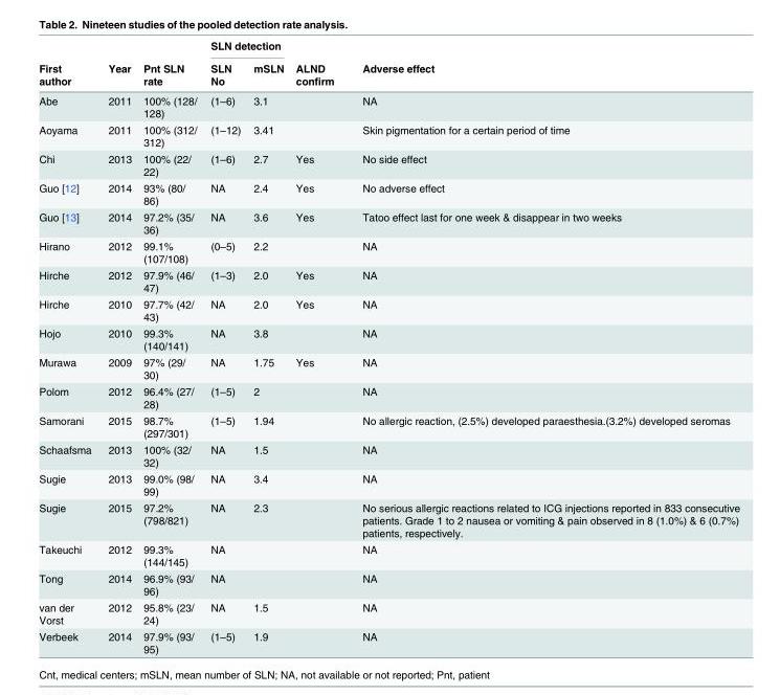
<table><thead><tr><td rowspan="2">First author</td><td rowspan="2">Year</td><td rowspan="2">Pnt SLN rate</td><td colspan="2">SLN detection</td><td rowspan="2">ALND confirm</td><td rowspan="2">Adverse effect</td></tr><tr><td>SLN No</td><td>mSLN</td></tr></thead><tbody><tr><td>Abe</td><td>2011</td><td>100% (128/ 128)</td><td>(1–6)</td><td>3.1</td><td></td><td>NA</td></tr><tr><td>Aoyama</td><td>2011</td><td>100% (312/ 312)</td><td>(1–12)</td><td>3.41</td><td></td><td>Skin pigmentation for a certain period of time</td></tr><tr><td>Chi</td><td>2013</td><td>100% (22/ 22)</td><td>(1–6)</td><td>2.7</td><td>Yes</td><td>No side effect</td></tr><tr><td>Guo [12]</td><td>2014</td><td>93% (80/ 86)</td><td>NA</td><td>2.4</td><td>Yes</td><td>No adverse effect</td></tr><tr><td>Guo [13]</td><td>2014</td><td>97.2% (35/ 36)</td><td>NA</td><td>3.6</td><td>Yes</td><td>Tatoo effect last for one week &amp; disappear in two weeks</td></tr><tr><td>Hirano</td><td>2012</td><td>99.1% (107/108)</td><td>(0–5)</td><td>2.2</td><td></td><td>NA</td></tr><tr><td>Hirche</td><td>2012</td><td>97.9% (46/ 47)</td><td>(1–3)</td><td>2.0</td><td>Yes</td><td>NA</td></tr><tr><td>Hirche</td><td>2010</td><td>97.7% (42/ 43)</td><td>NA</td><td>2.0</td><td>Yes</td><td>NA</td></tr><tr><td>Hojo</td><td>2010</td><td>99.3% (140/141)</td><td>NA</td><td>3.8</td><td></td><td>NA</td></tr><tr><td>Murawa</td><td>2009</td><td>97% (29/ 30)</td><td>NA</td><td>1.75</td><td>Yes</td><td>NA</td></tr><tr><td>Polom</td><td>2012</td><td>96.4% (27/ 28)</td><td>(1–5)</td><td>2</td><td></td><td>NA</td></tr><tr><td>Samorani</td><td>2015</td><td>98.7% (297/301)</td><td>(1–5)</td><td>1.94</td><td></td><td>No allergic reaction, (2.5%) developed paraesthesia.(3.2%) developed seromas</td></tr><tr><td>Schaafsma</td><td>2013</td><td>100% (32/ 32)</td><td>NA</td><td>1.5</td><td></td><td>NA</td></tr><tr><td>Sugie</td><td>2013</td><td>99.0% (98/ 99)</td><td>NA</td><td>3.4</td><td></td><td>NA</td></tr><tr><td>Sugie</td><td>2015</td><td>97.2% (798/821)</td><td>NA</td><td>2.3</td><td></td><td>No serious allergic reactions related to ICG injections reported in 833 consecutive patients. Grade 1 to 2 nausea or vomiting &amp; pain observed in 8 (1.0%) &amp; 6 (0.7%) patients, respectively.</td></tr><tr><td>Takeuchi</td><td>2012</td><td>99.3% (144/145)</td><td>NA</td><td></td><td></td><td>NA</td></tr><tr><td>Tong</td><td>2014</td><td>96.9% (93/ 96)</td><td>NA</td><td></td><td></td><td>NA</td></tr><tr><td>van der Vorst</td><td>2012</td><td>95.8% (23/ 24)</td><td>NA</td><td>1.5</td><td></td><td>NA</td></tr><tr><td>Verbeek</td><td>2014</td><td>97.9% (93/ 95)</td><td>(1–5)</td><td>1.9</td><td></td><td>NA</td></tr></tbody></table>